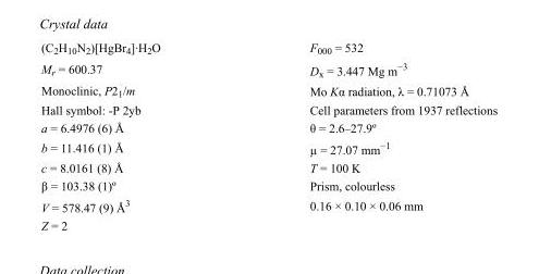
<table><tbody><tr><td>(C<sub>2</sub>H<sub>10</sub>N<sub>2</sub>)[HgBr<sub>4</sub>]·H<sub>2</sub>O</td><td>F000 = 532</td></tr><tr><td>M<sub>r</sub> = 600.37</td><td>D<sub>x</sub> = 3.447 Mg m<sup>−3</sup></td></tr><tr><td>Monoclinic, P2<sub>1</sub>/m</td><td>Mo Kα radiation, λ = 0.71073 Å</td></tr><tr><td>Hall symbol: -P 2yb</td><td>Cell parameters from 1937 reflections</td></tr><tr><td>a = 6.4976 (6) Å</td><td>θ = 2.6–27.9º</td></tr><tr><td>b = 11.416 (1) Å</td><td>µ = 27.07 mm<sup>−1</sup></td></tr><tr><td>c = 8.0161 (8) Å</td><td>T = 100 K</td></tr><tr><td>β = 103.38 (1)º</td><td>Prism, colourless</td></tr><tr><td>V = 578.47 (9) Å<sup>3</sup></td><td>0.16 × 0.10 × 0.06 mm</td></tr><tr><td>Z = 2</td><td></td></tr></tbody></table>